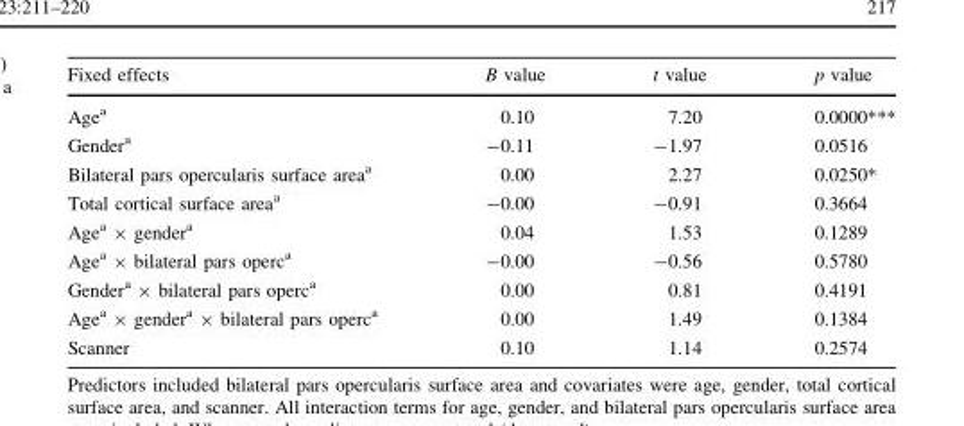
<table><thead><tr><td>Fixed effects</td><td>B value</td><td>t value</td><td>p value</td></tr></thead><tbody><tr><td>Age<sup>a</sup></td><td>0.10</td><td>7.20</td><td>0.0000***</td></tr><tr><td>Gender<sup>a</sup></td><td>-0.11</td><td>-1.97</td><td>0.0516</td></tr><tr><td>Bilateral pars opercularis surface area<sup>a</sup></td><td>0.00</td><td>2.27</td><td>0.0250*</td></tr><tr><td>Total cortical surface area<sup>a</sup></td><td>-0.00</td><td>-0.91</td><td>0.3664</td></tr><tr><td>Age<sup>a</sup> × gender<sup>a</sup></td><td>0.04</td><td>1.53</td><td>0.1289</td></tr><tr><td>Age<sup>a</sup> × bilateral pars operc<sup>a</sup></td><td>-0.00</td><td>-0.56</td><td>0.5780</td></tr><tr><td>Gender<sup>a</sup> × bilateral pars operc<sup>a</sup></td><td>0.00</td><td>0.81</td><td>0.4191</td></tr><tr><td>Age<sup>a</sup> × gender<sup>a</sup> × bilateral pars operc<sup>a</sup></td><td>0.00</td><td>1.49</td><td>0.1384</td></tr><tr><td>Scanner</td><td>0.10</td><td>1.14</td><td>0.2574</td></tr></tbody></table>